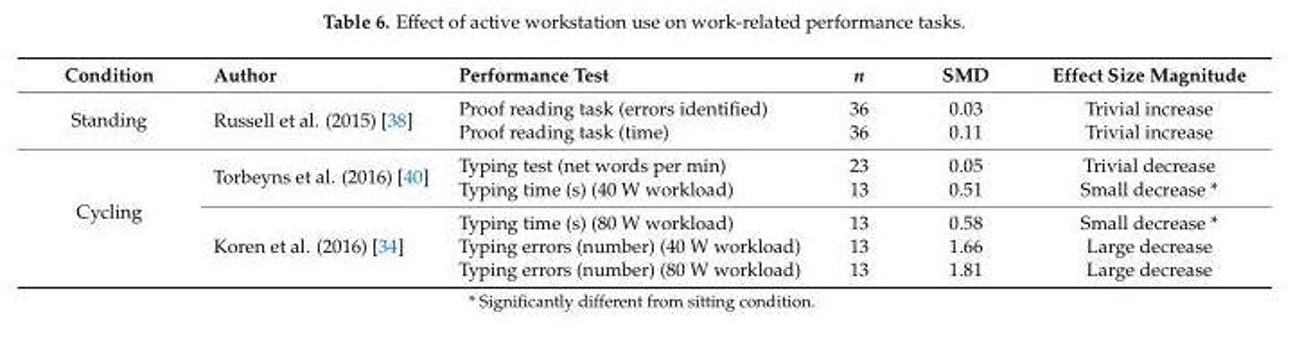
<table><thead><tr><td>Condition</td><td>Author</td><td>Performance Test</td><td>n</td><td>SMD</td><td>Effect Size Magnitude</td></tr></thead><tbody><tr><td rowspan="2">Standing</td><td rowspan="2">Russell et al. (2015) [38]</td><td>Proof reading task (errors identified)</td><td>36</td><td>0.03</td><td>Trivial increase</td></tr><tr><td>Proof reading task (time)</td><td>36</td><td>0.11</td><td>Trivial increase</td></tr><tr><td rowspan="5">Cycling</td><td rowspan="2">Torbeyns et al. (2016) [40]</td><td>Typing test (net words per min)</td><td>23</td><td>0.05</td><td>Trivial decrease</td></tr><tr><td>Typing time (s) (40 W workload)</td><td>13</td><td>0.51</td><td>Small decrease *</td></tr><tr><td rowspan="3">Koren et al. (2016) [34]</td><td>Typing time (s) (80 W workload)</td><td>13</td><td>0.58</td><td>Small decrease *</td></tr><tr><td>Typing errors (number) (40 W workload)</td><td>13</td><td>1.66</td><td>Large decrease</td></tr><tr><td>Typing errors (number) (80 W workload)</td><td>13</td><td>1.81</td><td>Large decrease</td></tr></tbody></table>